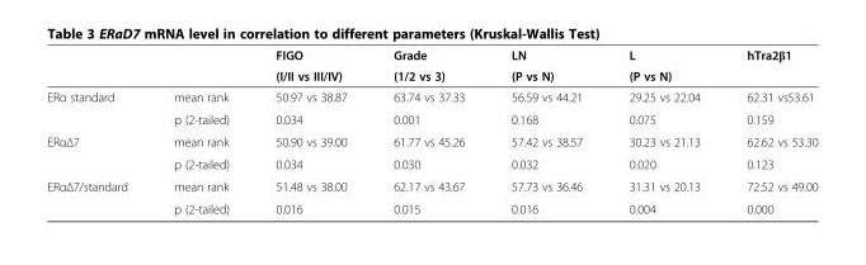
<table><thead><tr><td rowspan="2"></td><td rowspan="2"></td><td rowspan="2">FIGO (I/II vs III/IV)</td><td rowspan="2">Grade (1/2 vs 3)</td><td rowspan="2">LN (P vs N)</td><td rowspan="2">L (P vs N)</td><td rowspan="2">hTra2β1</td></tr><tr></tr></thead><tbody><tr><td rowspan="2">ERα standard</td><td>mean rank</td><td>50.97 vs 38.87</td><td>63.74 vs 37.33</td><td>56.59 vs 44.21</td><td>29.25 vs 22.04</td><td>62.31 vs53.61</td></tr><tr><td>p (2-tailed)</td><td>0.034</td><td>0.001</td><td>0.168</td><td>0.075</td><td>0.159</td></tr><tr><td rowspan="2">ERαΔ7</td><td>mean rank</td><td>50.90 vs 39.00</td><td>61.77 vs 45.26</td><td>57.42 vs 38.57</td><td>30.23 vs 21.13</td><td>62.62 vs 53.30</td></tr><tr><td>p (2-tailed)</td><td>0.034</td><td>0.030</td><td>0.032</td><td>0.020</td><td>0.123</td></tr><tr><td rowspan="2">ERαΔ7/standard</td><td>mean rank</td><td>51.48 vs 38.00</td><td>62.17 vs 43.67</td><td>57.73 vs 36.46</td><td>31.31 vs 20.13</td><td>72.52 vs 49.00</td></tr><tr><td>p (2-tailed)</td><td>0.016</td><td>0.015</td><td>0.016</td><td>0.004</td><td>0.000</td></tr></tbody></table>